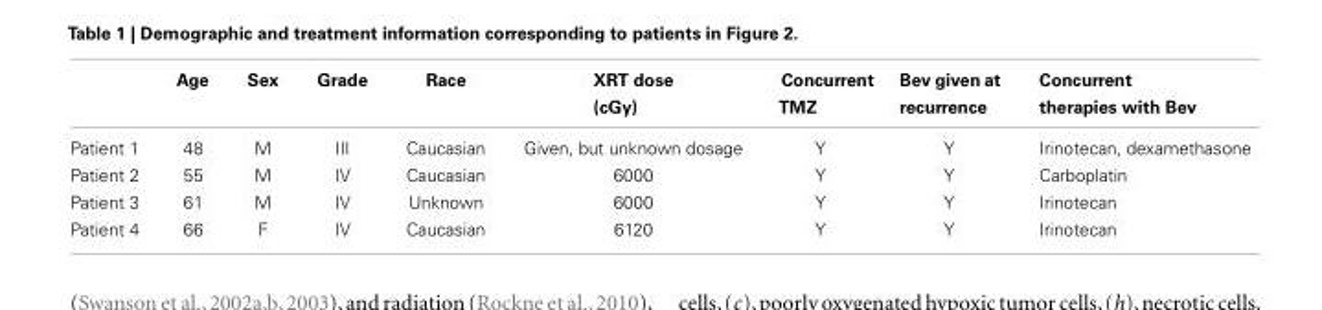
<table><thead><tr><td></td><td>Age</td><td>Sex</td><td>Grade</td><td>Race</td><td>XRT dose (cGy)</td><td>Concurrent TMZ</td><td>Bev given at recurrence</td><td>Concurrent therapies with Bev</td></tr></thead><tbody><tr><td>Patient 1</td><td>48</td><td>M</td><td>III</td><td>Caucasian</td><td>Given, but unknown dosage</td><td>Y</td><td>Y</td><td>Irinotecan, dexamethasone</td></tr><tr><td>Patient 2</td><td>55</td><td>M</td><td>IV</td><td>Caucasian</td><td>6000</td><td>Y</td><td>Y</td><td>Carboplatin</td></tr><tr><td>Patient 3</td><td>61</td><td>M</td><td>IV</td><td>Unknown</td><td>6000</td><td>Y</td><td>Y</td><td>Irinotecan</td></tr><tr><td>Patient 4</td><td>66</td><td>F</td><td>IV</td><td>Caucasian</td><td>6120</td><td>Y</td><td>Y</td><td>Irinotecan</td></tr></tbody></table>